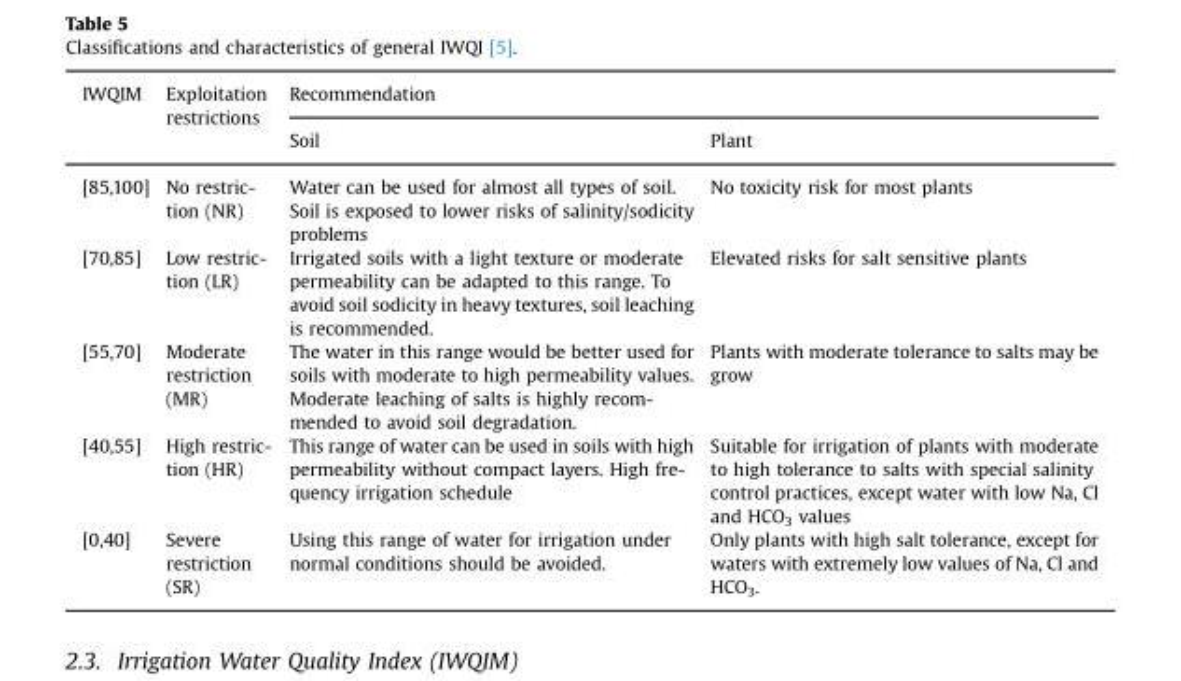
<table><thead><tr><td rowspan="2">IWQIM</td><td rowspan="2">Exploitation restrictions</td><td colspan="2">Recommendation</td></tr><tr><td>Soil</td><td>Plant</td></tr></thead><tbody><tr><td>[85,100]</td><td>No restric- tion (NR)</td><td>Water can be used for almost all types of soil. Soil is exposed to lower risks of salinity/sodicity problems</td><td>No toxicity risk for most plants</td></tr><tr><td>[70,85]</td><td>Low restric- tion (LR)</td><td>Irrigated soils with a light texture or moderate permeability can be adapted to this range. To avoid soil sodicity in heavy textures, soil leaching is recommended.</td><td>Elevated risks for salt sensitive plants</td></tr><tr><td>[55,70]</td><td>Moderate restriction (MR)</td><td>The water in this range would be better used for soils with moderate to high permeability values. Moderate leaching of salts is highly recom- mended to avoid soil degradation.</td><td>Plants with moderate tolerance to salts may be grow</td></tr><tr><td>[40,55]</td><td>High restric- tion (HR)</td><td>This range of water can be used in soils with high permeability without compact layers. High fre- quency irrigation schedule</td><td>Suitable for irrigation of plants with moderate to high tolerance to salts with special salinity control practices, except water with low Na, Cl and HCO<sub>3</sub> values</td></tr><tr><td>[0,40]</td><td>Severe restriction (SR)</td><td>Using this range of water for irrigation under normal conditions should be avoided.</td><td>Only plants with high salt tolerance, except for waters with extremely low values of Na, Cl and HCO<sub>3</sub>.</td></tr></tbody></table>